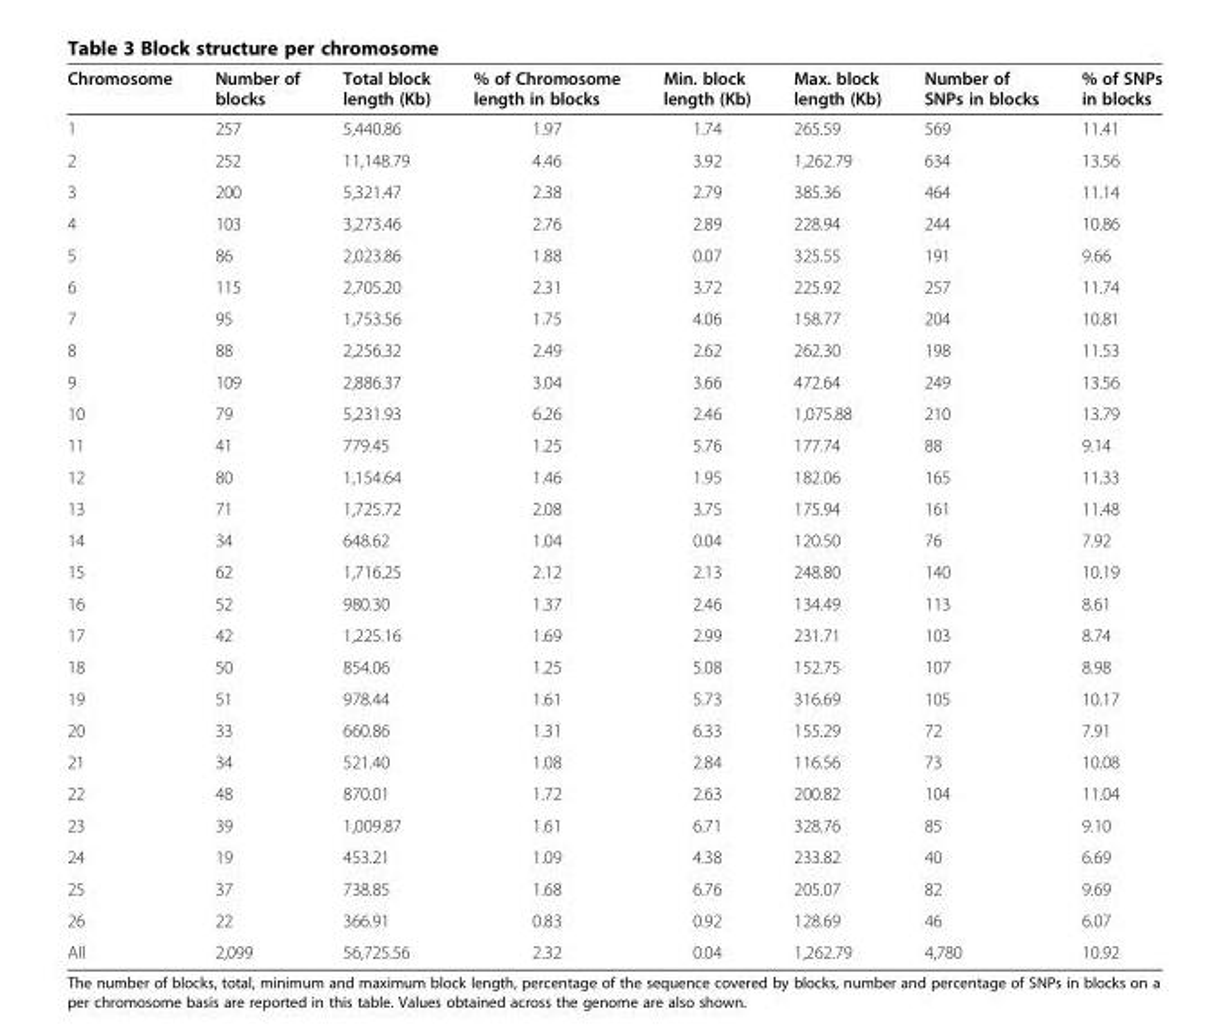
<table><thead><tr><td>Chromosome</td><td>Number of blocks</td><td>Total block length (Kb)</td><td>% of Chromosome length in blocks</td><td>Min. block length (Kb)</td><td>Max. block length (Kb)</td><td>Number of SNPs in blocks</td><td>% of SNPs in blocks</td></tr></thead><tbody><tr><td>1</td><td>257</td><td>5,440.86</td><td>1.97</td><td>1.74</td><td>265.59</td><td>569</td><td>11.41</td></tr><tr><td>2</td><td>252</td><td>11,148.79</td><td>4.46</td><td>3.92</td><td>1,262.79</td><td>634</td><td>13.56</td></tr><tr><td>3</td><td>200</td><td>5,321.47</td><td>2.38</td><td>2.79</td><td>385.36</td><td>464</td><td>11.14</td></tr><tr><td>4</td><td>103</td><td>3,273.46</td><td>2.76</td><td>2.89</td><td>228.94</td><td>244</td><td>10.86</td></tr><tr><td>5</td><td>86</td><td>2,023.86</td><td>1.88</td><td>0.07</td><td>325.55</td><td>191</td><td>9.66</td></tr><tr><td>6</td><td>115</td><td>2,705.20</td><td>2.31</td><td>3.72</td><td>225.92</td><td>257</td><td>11.74</td></tr><tr><td>7</td><td>95</td><td>1,753.56</td><td>1.75</td><td>4.06</td><td>158.77</td><td>204</td><td>10.81</td></tr><tr><td>8</td><td>88</td><td>2,256.32</td><td>2.49</td><td>2.62</td><td>262.30</td><td>198</td><td>11.53</td></tr><tr><td>9</td><td>109</td><td>2,886.37</td><td>3.04</td><td>3.66</td><td>472.64</td><td>249</td><td>13.56</td></tr><tr><td>10</td><td>79</td><td>5,231.93</td><td>6.26</td><td>2.46</td><td>1,075.88</td><td>210</td><td>13.79</td></tr><tr><td>11</td><td>41</td><td>779.45</td><td>1.25</td><td>5.76</td><td>177.74</td><td>88</td><td>9.14</td></tr><tr><td>12</td><td>80</td><td>1,154.64</td><td>1.46</td><td>1.95</td><td>182.06</td><td>165</td><td>11.33</td></tr><tr><td>13</td><td>71</td><td>1,725.72</td><td>2.08</td><td>3.75</td><td>175.94</td><td>161</td><td>11.48</td></tr><tr><td>14</td><td>34</td><td>648.62</td><td>1.04</td><td>0.04</td><td>120.50</td><td>76</td><td>7.92</td></tr><tr><td>15</td><td>62</td><td>1,716.25</td><td>2.12</td><td>2.13</td><td>248.80</td><td>140</td><td>10.19</td></tr><tr><td>16</td><td>52</td><td>980.30</td><td>1.37</td><td>2.46</td><td>134.49</td><td>113</td><td>8.61</td></tr><tr><td>17</td><td>42</td><td>1,225.16</td><td>1.69</td><td>2.99</td><td>231.71</td><td>103</td><td>8.74</td></tr><tr><td>18</td><td>50</td><td>854.06</td><td>1.25</td><td>5.08</td><td>152.75</td><td>107</td><td>8.98</td></tr><tr><td>19</td><td>51</td><td>978.44</td><td>1.61</td><td>5.73</td><td>316.69</td><td>105</td><td>10.17</td></tr><tr><td>20</td><td>33</td><td>660.86</td><td>1.31</td><td>6.33</td><td>155.29</td><td>72</td><td>7.91</td></tr><tr><td>21</td><td>34</td><td>521.40</td><td>1.08</td><td>2.84</td><td>116.56</td><td>73</td><td>10.08</td></tr><tr><td>22</td><td>48</td><td>870.01</td><td>1.72</td><td>2.63</td><td>200.82</td><td>104</td><td>11.04</td></tr><tr><td>23</td><td>39</td><td>1,009.87</td><td>1.61</td><td>6.71</td><td>328.76</td><td>85</td><td>9.10</td></tr><tr><td>24</td><td>19</td><td>453.21</td><td>1.09</td><td>4.38</td><td>233.82</td><td>40</td><td>6.69</td></tr><tr><td>25</td><td>37</td><td>738.85</td><td>1.68</td><td>6.76</td><td>205.07</td><td>82</td><td>9.69</td></tr><tr><td>26</td><td>22</td><td>366.91</td><td>0.83</td><td>0.92</td><td>128.69</td><td>46</td><td>6.07</td></tr><tr><td>All</td><td>2,099</td><td>56,725.56</td><td>2.32</td><td>0.04</td><td>1,262.79</td><td>4,780</td><td>10.92</td></tr></tbody></table>